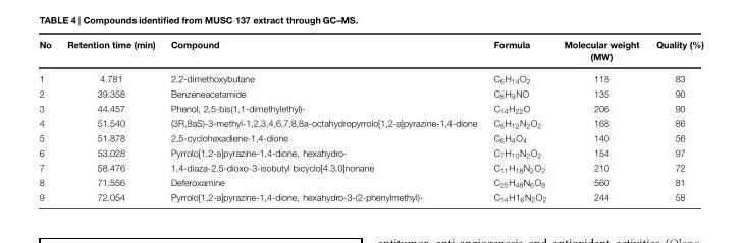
<table><thead><tr><td>No</td><td>Retention time (min)</td><td>Compound</td><td>Formula</td><td>Molecular weight (MW)</td><td>Quality (%)</td></tr></thead><tbody><tr><td>1</td><td>4.781</td><td>2,2-dimethoxybutane</td><td>C<sub>6</sub>H<sub>14</sub>O<sub>2</sub></td><td>118</td><td>83</td></tr><tr><td>2</td><td>39.358</td><td>Benzeneacetamide</td><td>C<sub>8</sub>H<sub>9</sub>NO</td><td>135</td><td>90</td></tr><tr><td>3</td><td>44.457</td><td>Phenol, 2,5-bis(1,1-dimethylethyl)-</td><td>C<sub>14</sub>H<sub>22</sub>O</td><td>206</td><td>90</td></tr><tr><td>4</td><td>51.540</td><td>(3R,8aS)-3-methyl-1,2,3,4,6,7,8,8a-octahydropyrrolo[1,2-a]pyrazine-1,4-dione</td><td>C<sub>8</sub>H<sub>12</sub>N<sub>2</sub>O<sub>2</sub></td><td>168</td><td>86</td></tr><tr><td>5</td><td>51.878</td><td>2,5-cyclohexadiene-1,4-dione</td><td>C<sub>6</sub>H<sub>4</sub>O<sub>4</sub></td><td>140</td><td>56</td></tr><tr><td>6</td><td>53.028</td><td>Pyrrolo[1,2-a]pyrazine-1,4-dione, hexahydro-</td><td>C<sub>7</sub>H<sub>10</sub>N<sub>2</sub>O<sub>2</sub></td><td>154</td><td>97</td></tr><tr><td>7</td><td>58.476</td><td>1,4-diaza-2,5-dioxo-3-isobutyl bicyclo[4.3.0]nonane</td><td>C<sub>11</sub>H<sub>18</sub>N<sub>2</sub>O<sub>2</sub></td><td>210</td><td>72</td></tr><tr><td>8</td><td>71.556</td><td>Deferoxamine</td><td>C<sub>25</sub>H<sub>48</sub>N<sub>6</sub>O<sub>8</sub></td><td>560</td><td>81</td></tr><tr><td>9</td><td>72.054</td><td>Pyrrolo[1,2-a]pyrazine-1,4-dione, hexahydro-3-(2-phenylmethyl)-</td><td>C<sub>14</sub>H1<sub>6</sub>N<sub>2</sub>O<sub>2</sub></td><td>244</td><td>58</td></tr></tbody></table>